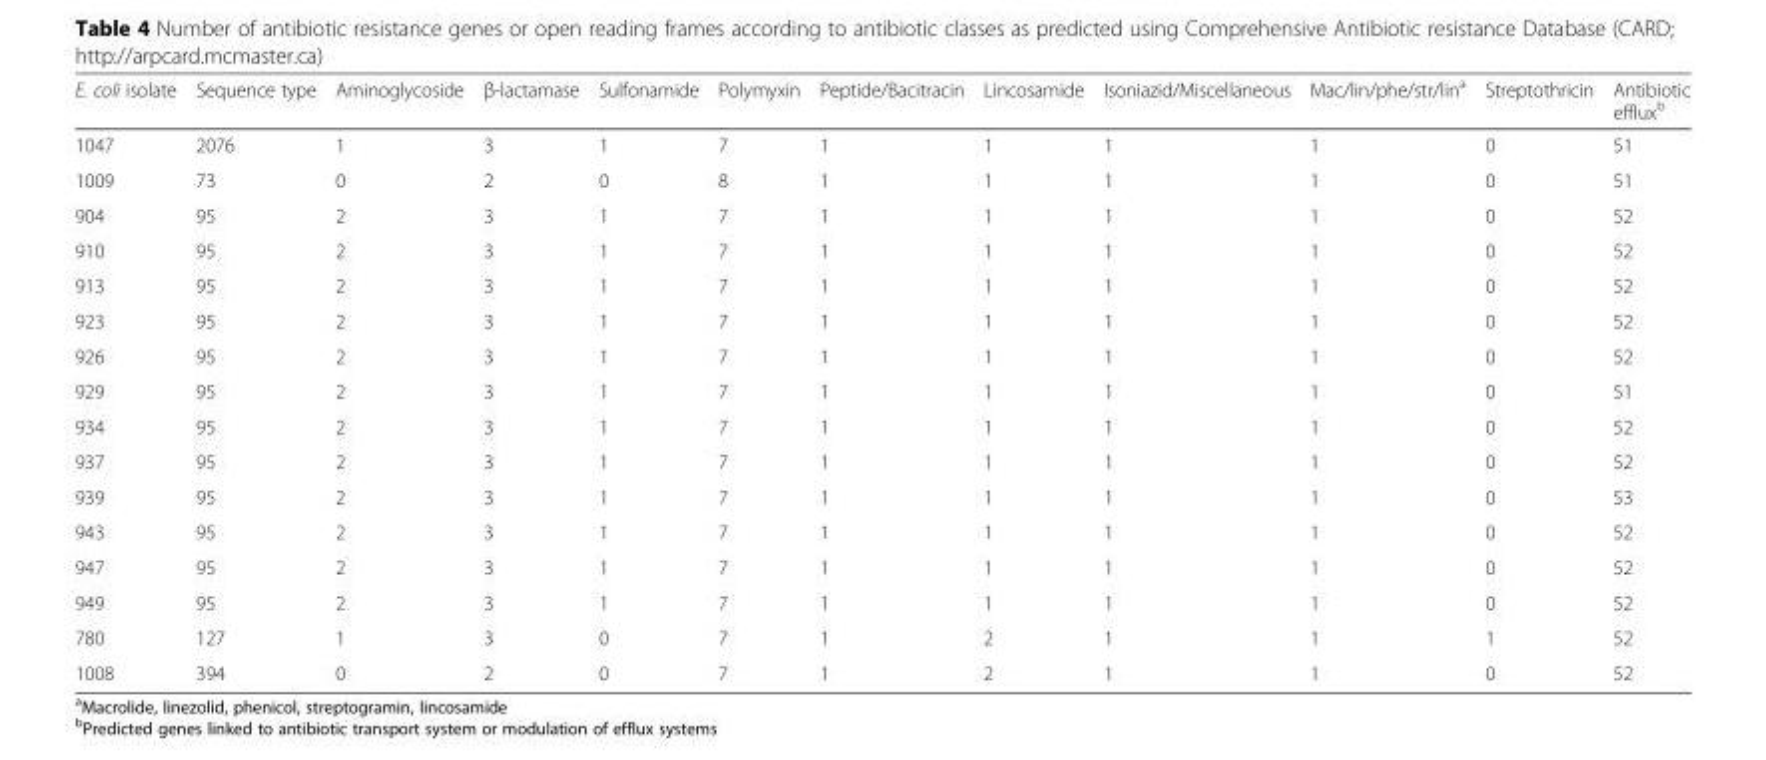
<table><thead><tr><td>E. coli isolate</td><td>Sequence type</td><td>Aminoglycoside</td><td>β-lactamase</td><td>Sulfonamide</td><td>Polymyxin</td><td>Peptide/Bacitracin</td><td>Lincosamide</td><td>Isoniazid/Miscellaneous</td><td>Mac/lin/phe/str/lin<sup>a</sup></td><td>Streptothricin</td><td>Antibiotic efflux<sup>b</sup></td></tr></thead><tbody><tr><td>1047</td><td>2076</td><td>1</td><td>3</td><td>1</td><td>7</td><td>1</td><td>1</td><td>1</td><td>1</td><td>0</td><td>51</td></tr><tr><td>1009</td><td>73</td><td>0</td><td>2</td><td>0</td><td>8</td><td>1</td><td>1</td><td>1</td><td>1</td><td>0</td><td>51</td></tr><tr><td>904</td><td>95</td><td>2</td><td>3</td><td>1</td><td>7</td><td>1</td><td>1</td><td>1</td><td>1</td><td>0</td><td>52</td></tr><tr><td>910</td><td>95</td><td>2</td><td>3</td><td>1</td><td>7</td><td>1</td><td>1</td><td>1</td><td>1</td><td>0</td><td>52</td></tr><tr><td>913</td><td>95</td><td>2</td><td>3</td><td>1</td><td>7</td><td>1</td><td>1</td><td>1</td><td>1</td><td>0</td><td>52</td></tr><tr><td>923</td><td>95</td><td>2</td><td>3</td><td>1</td><td>7</td><td>1</td><td>1</td><td>1</td><td>1</td><td>0</td><td>52</td></tr><tr><td>926</td><td>95</td><td>2</td><td>3</td><td>1</td><td>7</td><td>1</td><td>1</td><td>1</td><td>1</td><td>0</td><td>52</td></tr><tr><td>929</td><td>95</td><td>2</td><td>3</td><td>1</td><td>7</td><td>1</td><td>1</td><td>1</td><td>1</td><td>0</td><td>51</td></tr><tr><td>934</td><td>95</td><td>2</td><td>3</td><td>1</td><td>7</td><td>1</td><td>1</td><td>1</td><td>1</td><td>0</td><td>52</td></tr><tr><td>937</td><td>95</td><td>2</td><td>3</td><td>1</td><td>7</td><td>1</td><td>1</td><td>1</td><td>1</td><td>0</td><td>52</td></tr><tr><td>939</td><td>95</td><td>2</td><td>3</td><td>1</td><td>7</td><td>1</td><td>1</td><td>1</td><td>1</td><td>0</td><td>53</td></tr><tr><td>943</td><td>95</td><td>2</td><td>3</td><td>1</td><td>7</td><td>1</td><td>1</td><td>1</td><td>1</td><td>0</td><td>52</td></tr><tr><td>947</td><td>95</td><td>2</td><td>3</td><td>1</td><td>7</td><td>1</td><td>1</td><td>1</td><td>1</td><td>0</td><td>52</td></tr><tr><td>949</td><td>95</td><td>2</td><td>3</td><td>1</td><td>7</td><td>1</td><td>1</td><td>1</td><td>1</td><td>0</td><td>52</td></tr><tr><td>780</td><td>127</td><td>1</td><td>3</td><td>0</td><td>7</td><td>1</td><td>2</td><td>1</td><td>1</td><td>1</td><td>52</td></tr><tr><td>1008</td><td>394</td><td>0</td><td>2</td><td>0</td><td>7</td><td>1</td><td>2</td><td>1</td><td>1</td><td>0</td><td>52</td></tr></tbody></table>